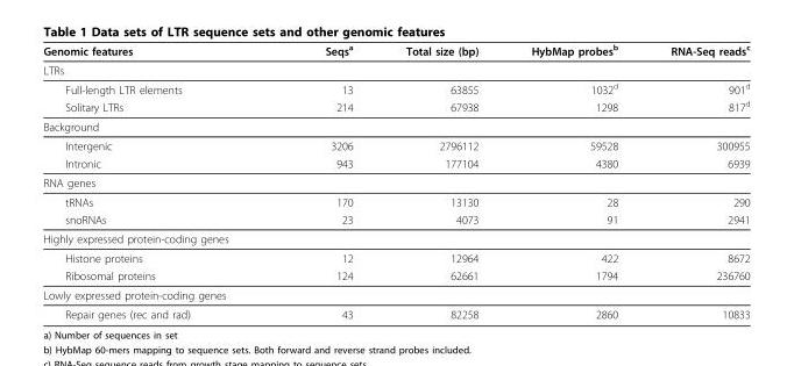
<table><thead><tr><td>Genomic features</td><td>Seqs<sup>a</sup></td><td>Total size (bp)</td><td>HybMap probes<sup>b</sup></td><td>RNA-Seq reads<sup>c</sup></td></tr></thead><tbody><tr><td colspan="5">LTRs</td></tr><tr><td>Full-length LTR elements</td><td>13</td><td>63855</td><td>1032<sup>d</sup></td><td>901<sup>d</sup></td></tr><tr><td>Solitary LTRs</td><td>214</td><td>67938</td><td>1298</td><td>817<sup>d</sup></td></tr><tr><td colspan="5">Background</td></tr><tr><td>Intergenic</td><td>3206</td><td>2796112</td><td>59528</td><td>300955</td></tr><tr><td>Intronic</td><td>943</td><td>177104</td><td>4380</td><td>6939</td></tr><tr><td colspan="5">RNA genes</td></tr><tr><td>tRNAs</td><td>170</td><td>13130</td><td>28</td><td>290</td></tr><tr><td>snoRNAs</td><td>23</td><td>4073</td><td>91</td><td>2941</td></tr><tr><td colspan="5">Highly expressed protein-coding genes</td></tr><tr><td>Histone proteins</td><td>12</td><td>12964</td><td>422</td><td>8672</td></tr><tr><td>Ribosomal proteins</td><td>124</td><td>62661</td><td>1794</td><td>236760</td></tr><tr><td colspan="5">Lowly expressed protein-coding genes</td></tr><tr><td>Repair genes (rec and rad)</td><td>43</td><td>82258</td><td>2860</td><td>10833</td></tr></tbody></table>